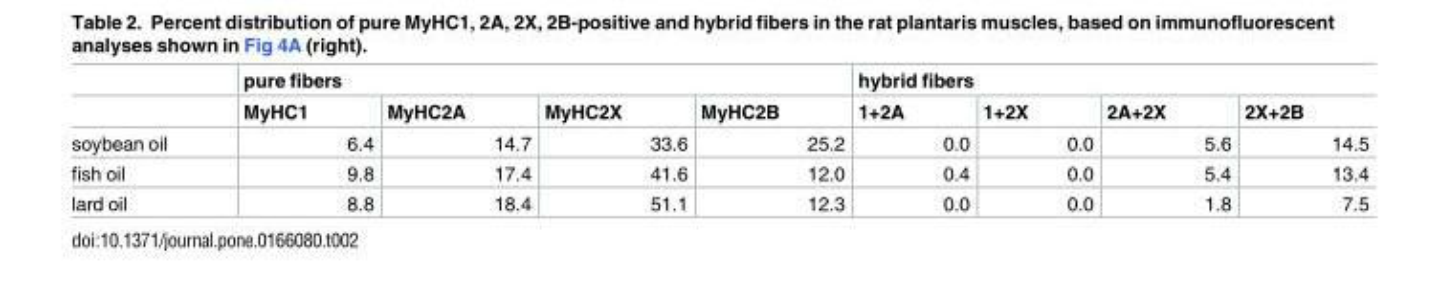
<table><thead><tr><td rowspan="2"></td><td colspan="4">pure fibers</td><td colspan="4">hybrid fibers</td></tr><tr><td>MyHC1</td><td>MyHC2A</td><td>MyHC2X</td><td>MyHC2B</td><td>1+2A</td><td>1+2X</td><td>2A+2X</td><td>2X+2B</td></tr></thead><tbody><tr><td>soybean oil</td><td>6.4</td><td>14.7</td><td>33.6</td><td>25.2</td><td>0.0</td><td>0.0</td><td>5.6</td><td>14.5</td></tr><tr><td>fish oil</td><td>9.8</td><td>17.4</td><td>41.6</td><td>12.0</td><td>0.4</td><td>0.0</td><td>5.4</td><td>13.4</td></tr><tr><td>lard oil</td><td>8.8</td><td>18.4</td><td>51.1</td><td>12.3</td><td>0.0</td><td>0.0</td><td>1.8</td><td>7.5</td></tr></tbody></table>